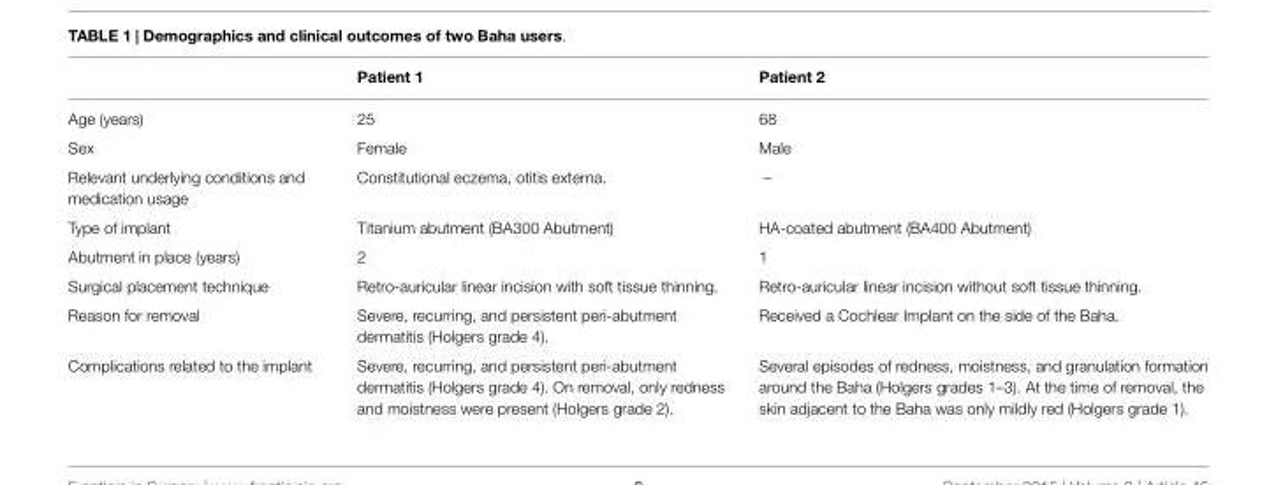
<table><thead><tr><td></td><td>Patient 1</td><td>Patient 2</td></tr></thead><tbody><tr><td>Age (years)</td><td>25</td><td>68</td></tr><tr><td>Sex</td><td>Female</td><td>Male</td></tr><tr><td>Relevant underlying conditions and medication usage</td><td>Constitutional eczema, otitis externa.</td><td>–</td></tr><tr><td>Type of implant</td><td>Titanium abutment (BA300 Abutment)</td><td>HA-coated abutment (BA400 Abutment)</td></tr><tr><td>Abutment in place (years)</td><td>2</td><td>1</td></tr><tr><td>Surgical placement technique</td><td>Retro-auricular linear incision with soft tissue thinning.</td><td>Retro-auricular linear incision without soft tissue thinning.</td></tr><tr><td>Reason for removal</td><td>Severe, recurring, and persistent peri-abutment dermatitis (Holgers grade 4).</td><td>Received a Cochlear Implant on the side of the Baha.</td></tr><tr><td>Complications related to the implant</td><td>Severe, recurring, and persistent peri-abutment dermatitis (Holgers grade 4). On removal, only redness and moistness were present (Holgers grade 2).</td><td>Several episodes of redness, moistness, and granulation formation around the Baha (Holgers grades 1–3). At the time of removal, the skin adjacent to the Baha was only mildly red (Holgers grade 1).</td></tr></tbody></table>